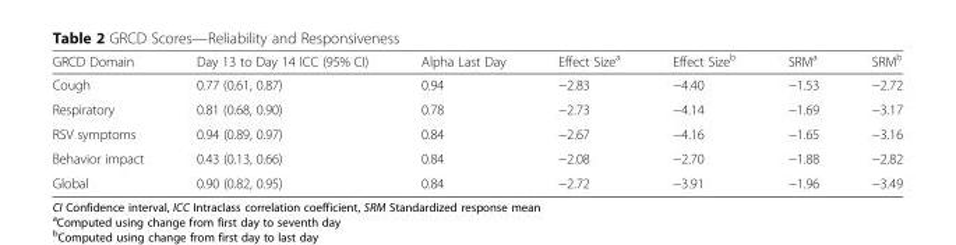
<table><thead><tr><td>GRCD Domain</td><td>Day 13 to Day 14 ICC (95% CI)</td><td>Alpha Last Day</td><td>Effect Size<sup>a</sup></td><td>Effect Size<sup>b</sup></td><td>SRM<sup>a</sup></td><td>SRM<sup>b</sup></td></tr></thead><tbody><tr><td>Cough</td><td>0.77 (0.61, 0.87)</td><td>0.94</td><td>−2.83</td><td>−4.40</td><td>−1.53</td><td>−2.72</td></tr><tr><td>Respiratory</td><td>0.81 (0.68, 0.90)</td><td>0.78</td><td>−2.73</td><td>−4.14</td><td>−1.69</td><td>−3.17</td></tr><tr><td>RSV symptoms</td><td>0.94 (0.89, 0.97)</td><td>0.84</td><td>−2.67</td><td>−4.16</td><td>−1.65</td><td>−3.16</td></tr><tr><td>Behavior impact</td><td>0.43 (0.13, 0.66)</td><td>0.84</td><td>−2.08</td><td>−2.70</td><td>−1.88</td><td>−2.82</td></tr><tr><td>Global</td><td>0.90 (0.82, 0.95)</td><td>0.84</td><td>−2.72</td><td>−3.91</td><td>−1.96</td><td>−3.49</td></tr></tbody></table>